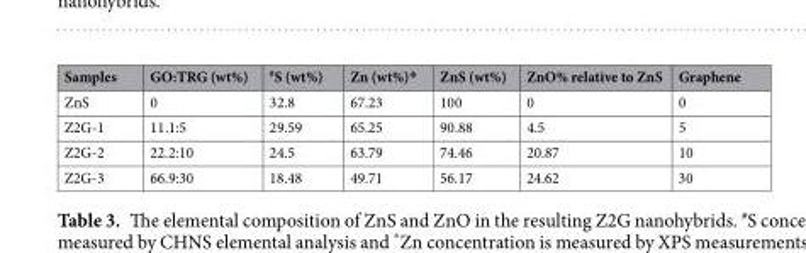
<table><thead><tr><td>Samples</td><td>GO:TRG (wt%)</td><td><sup>#</sup>S (wt%)</td><td>Zn (wt%)*</td><td>ZnS (wt%)</td><td>ZnO% relative to ZnS</td><td>Graphene</td></tr></thead><tbody><tr><td>ZnS</td><td>0</td><td>32.8</td><td>67.23</td><td>100</td><td>0</td><td>0</td></tr><tr><td>Z2G-1</td><td>11.1:5</td><td>29.59</td><td>65.25</td><td>90.88</td><td>4.5</td><td>5</td></tr><tr><td>Z2G-2</td><td>22.2:10</td><td>24.5</td><td>63.79</td><td>74.46</td><td>20.87</td><td>10</td></tr><tr><td>Z2G-3</td><td>66.9:30</td><td>18.48</td><td>49.71</td><td>56.17</td><td>24.62</td><td>30</td></tr></tbody></table>